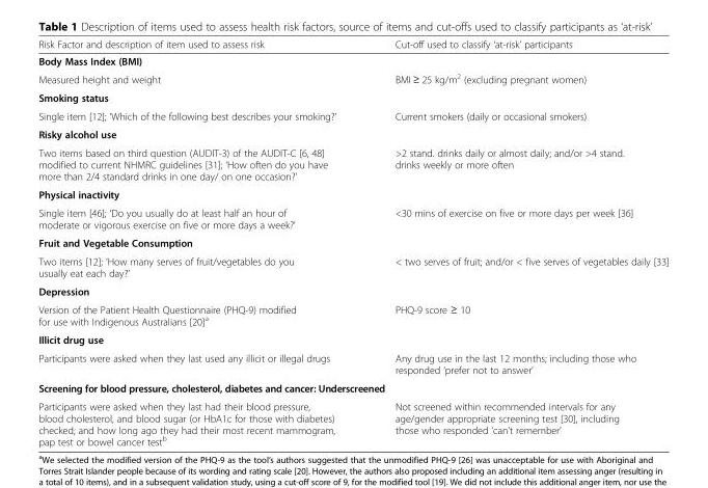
<table><thead><tr><td>Risk Factor and description of item used to assess risk</td><td>Cut-off used to classify ‘at-risk’ participants</td></tr></thead><tbody><tr><td colspan="2">Body Mass Index (BMI)</td></tr><tr><td>Measured height and weight</td><td>BMI ≥ 25 kg/m<sup>2</sup> (excluding pregnant women)</td></tr><tr><td colspan="2">Smoking status</td></tr><tr><td>Single item [12]; ‘Which of the following best describes your smoking?’</td><td>Current smokers (daily or occasional smokers)</td></tr><tr><td colspan="2">Risky alcohol use</td></tr><tr><td>Two items based on third question (AUDIT-3) of the AUDIT-C [6, 48] modified to current NHMRC guidelines [31]; ‘How often do you have more than 2/4 standard drinks in one day/ on one occasion?’</td><td>&gt;2 stand. drinks daily or almost daily; and/or &gt;4 stand. drinks weekly or more often</td></tr><tr><td colspan="2">Physical inactivity</td></tr><tr><td>Single item [46]; ‘Do you usually do at least half an hour of moderate or vigorous exercise on five or more days a week?’</td><td>&lt;30 mins of exercise on five or more days per week [36]</td></tr><tr><td colspan="2">Fruit and Vegetable Consumption</td></tr><tr><td>Two items [12]; ‘How many serves of fruit/vegetables do you usually eat each day?’</td><td>&lt; two serves of fruit; and/or &lt; five serves of vegetables daily [33]</td></tr><tr><td colspan="2">Depression</td></tr><tr><td>Version of the Patient Health Questionnaire (PHQ-9) modified for use with Indigenous Australians [20]<sup>a</sup></td><td>PHQ-9 score ≥ 10</td></tr><tr><td colspan="2">Illicit drug use</td></tr><tr><td>Participants were asked when they last used any illicit or illegal drugs</td><td>Any drug use in the last 12 months; including those who responded ‘prefer not to answer’</td></tr><tr><td colspan="2">Screening for blood pressure, cholesterol, diabetes and cancer: Underscreened</td></tr><tr><td>Participants were asked when they last had their blood pressure, blood cholesterol, and blood sugar (or HbA1c for those with diabetes) checked; and how long ago they had their most recent mammogram, pap test or bowel cancer test<sup>b</sup></td><td>Not screened within recommended intervals for any age/gender appropriate screening test [30], including those who responded ‘can’t remember’</td></tr></tbody></table>